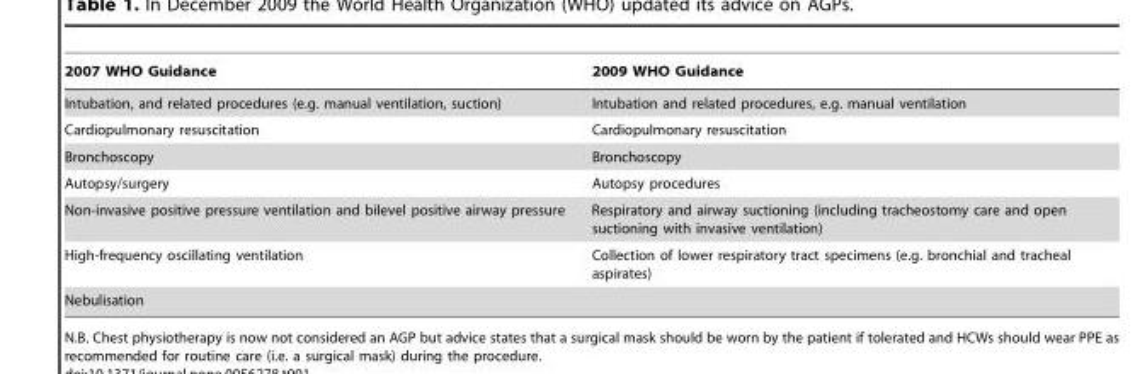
<table><thead><tr><td>2007 WHO Guidance</td><td>2009 WHO Guidance</td></tr></thead><tbody><tr><td>Intubation, and related procedures (e.g. manual ventilation, suction)</td><td>Intubation and related procedures, e.g. manual ventilation</td></tr><tr><td>Cardiopulmonary resuscitation</td><td>Cardiopulmonary resuscitation</td></tr><tr><td>Bronchoscopy</td><td>Bronchoscopy</td></tr><tr><td>Autopsy/surgery</td><td>Autopsy procedures</td></tr><tr><td>Non-invasive positive pressure ventilation and bilevel positive airway pressure</td><td>Respiratory and airway suctioning (including tracheostomy care and open suctioning with invasive ventilation)</td></tr><tr><td>High-frequency oscillating ventilation</td><td>Collection of lower respiratory tract specimens (e.g. bronchial and tracheal aspirates)</td></tr><tr><td>Nebulisation</td><td></td></tr></tbody></table>